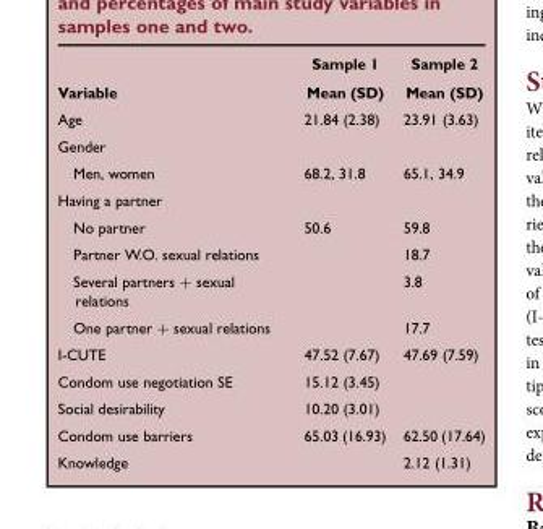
<table><thead><tr><td rowspan="2">Variable</td><td rowspan="2">Sample 1 Mean (SD)</td><td rowspan="2">Sample 2 Mean (SD)</td></tr><tr></tr></thead><tbody><tr><td>Age</td><td>21.84 (2.38)</td><td>23.91 (3.63)</td></tr><tr><td colspan="3">Gender</td></tr><tr><td>Men, women</td><td>68.2, 31.8</td><td>65.1, 34.9</td></tr><tr><td colspan="3">Having a partner</td></tr><tr><td>No partner</td><td>50.6</td><td>59.8</td></tr><tr><td>Partner W.O. sexual relations</td><td></td><td>18.7</td></tr><tr><td>Several partners + sexual relations</td><td></td><td>3.8</td></tr><tr><td>One partner + sexual relations</td><td></td><td>17.7</td></tr><tr><td>I-CUTE</td><td>47.52 (7.67)</td><td>47.69 (7.59)</td></tr><tr><td>Condom use negotiation SE</td><td>15.12 (3.45)</td><td></td></tr><tr><td>Social desirability</td><td>10.20 (3.01)</td><td></td></tr><tr><td>Condom use barriers</td><td>65.03 (16.93)</td><td>62.50 (17.64)</td></tr><tr><td>Knowledge</td><td></td><td>2.12 (1.31)</td></tr></tbody></table>